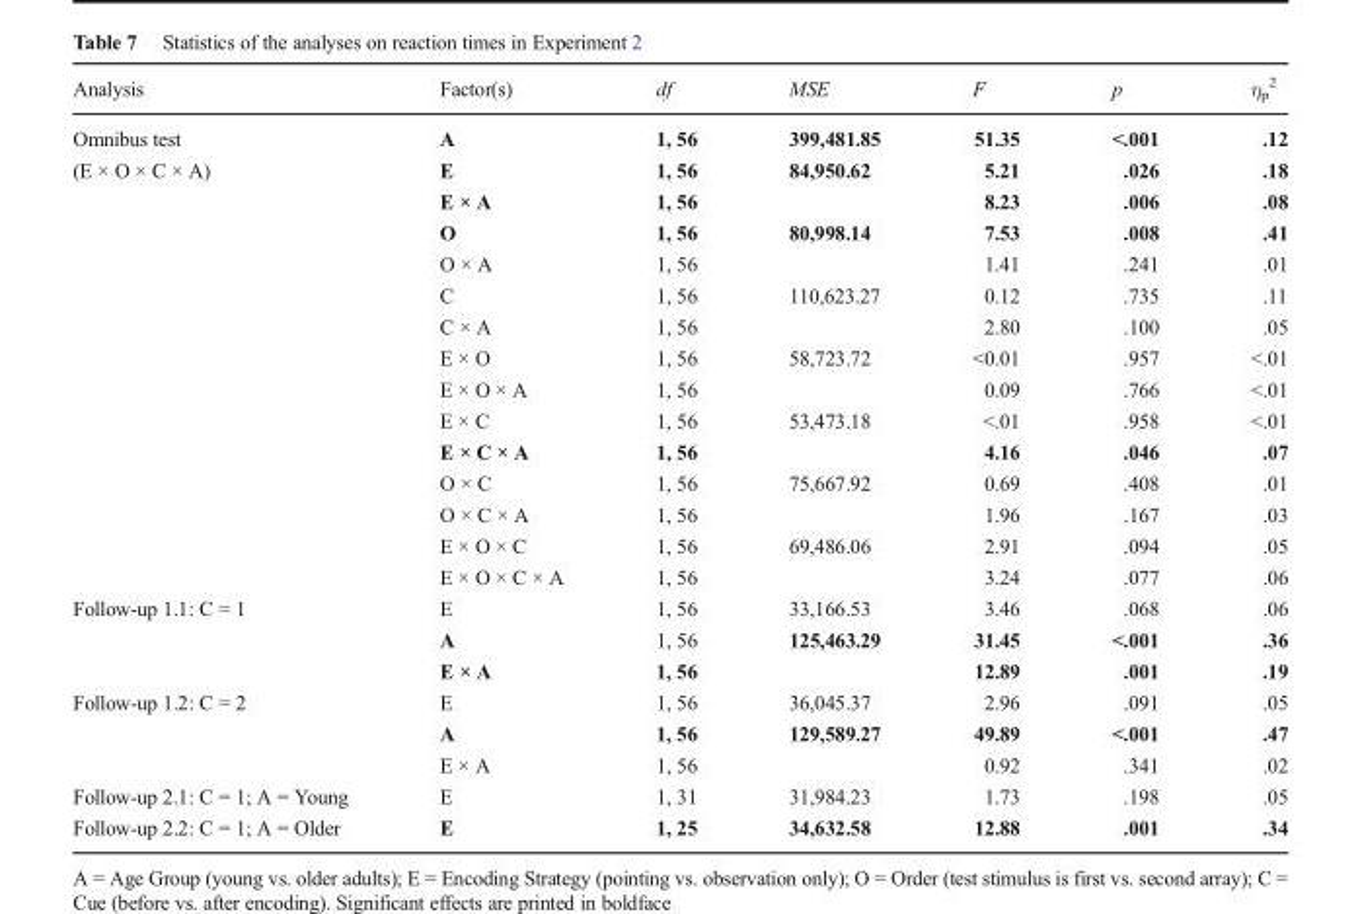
<table><thead><tr><td>Analysis</td><td>Factor(s)</td><td>df</td><td>MSE</td><td>F</td><td>p</td><td>η<sub>p</sub> <sup>2</sup></td></tr></thead><tbody><tr><td>Omnibus test</td><td>A</td><td>1, 56</td><td>399,481.85</td><td>51.35</td><td>&lt;.001</td><td>.12</td></tr><tr><td rowspan="14">(E × O × C × A)</td><td>E</td><td>1, 56</td><td>84,950.62</td><td>5.21</td><td>.026</td><td>.18</td></tr><tr><td>E × A</td><td>1, 56</td><td></td><td>8.23</td><td>.006</td><td>.08</td></tr><tr><td>O</td><td>1, 56</td><td>80,998.14</td><td>7.53</td><td>.008</td><td>.41</td></tr><tr><td>O × A</td><td>1, 56</td><td></td><td>1.41</td><td>.241</td><td>.01</td></tr><tr><td>C</td><td>1, 56</td><td>110,623.27</td><td>0.12</td><td>.735</td><td>.11</td></tr><tr><td>C × A</td><td>1, 56</td><td></td><td>2.80</td><td>.100</td><td>.05</td></tr><tr><td>E × O</td><td>1, 56</td><td>58,723.72</td><td>&lt;0.01</td><td>.957</td><td>&lt;.01</td></tr><tr><td>E × O × A</td><td>1, 56</td><td></td><td>0.09</td><td>.766</td><td>&lt;.01</td></tr><tr><td>E × C</td><td>1, 56</td><td>53,473.18</td><td>&lt;.01</td><td>.958</td><td>&lt;.01</td></tr><tr><td>E × C × A</td><td>1, 56</td><td></td><td>4.16</td><td>.046</td><td>.07</td></tr><tr><td>O × C</td><td>1, 56</td><td>75,667.92</td><td>0.69</td><td>.408</td><td>.01</td></tr><tr><td>O × C × A</td><td>1, 56</td><td></td><td>1.96</td><td>.167</td><td>.03</td></tr><tr><td>E × O × C</td><td>1, 56</td><td>69,486.06</td><td>2.91</td><td>.094</td><td>.05</td></tr><tr><td>E × O × C × A</td><td>1, 56</td><td></td><td>3.24</td><td>.077</td><td>.06</td></tr><tr><td rowspan="3">Follow-up 1.1: C = 1</td><td>E</td><td>1, 56</td><td>33,166.53</td><td>3.46</td><td>.068</td><td>.06</td></tr><tr><td>A</td><td>1, 56</td><td>125,463.29</td><td>31.45</td><td>&lt;.001</td><td>.36</td></tr><tr><td>E × A</td><td>1, 56</td><td></td><td>12.89</td><td>.001</td><td>.19</td></tr><tr><td rowspan="3">Follow-up 1.2: C = 2</td><td>E</td><td>1, 56</td><td>36,045.37</td><td>2.96</td><td>.091</td><td>.05</td></tr><tr><td>A</td><td>1, 56</td><td>129,589.27</td><td>49.89</td><td>&lt;.001</td><td>.47</td></tr><tr><td>E × A</td><td>1, 56</td><td></td><td>0.92</td><td>.341</td><td>.02</td></tr><tr><td>Follow-up 2.1: C = 1; A = Young</td><td>E</td><td>1, 31</td><td>31,984.23</td><td>1.73</td><td>.198</td><td>.05</td></tr><tr><td>Follow-up 2.2: C = 1; A = Older</td><td>E</td><td>1, 25</td><td>34,632.58</td><td>12.88</td><td>.001</td><td>.34</td></tr></tbody></table>